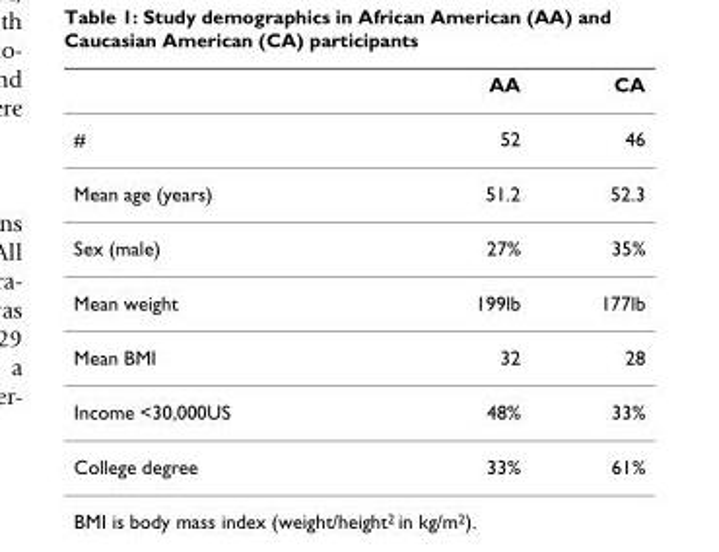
<table><thead><tr><td></td><td>AA</td><td>CA</td></tr></thead><tbody><tr><td>#</td><td>52</td><td>46</td></tr><tr><td>Mean age (years)</td><td>51.2</td><td>52.3</td></tr><tr><td>Sex (male)</td><td>27%</td><td>35%</td></tr><tr><td>Mean weight</td><td>199lb</td><td>177lb</td></tr><tr><td>Mean BMI</td><td>32</td><td>28</td></tr><tr><td>Income &lt;30,000US</td><td>48%</td><td>33%</td></tr><tr><td>College degree</td><td>33%</td><td>61%</td></tr></tbody></table>